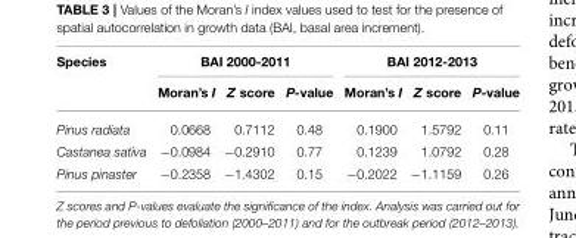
<table><thead><tr><td rowspan="2">Species</td><td colspan="3">BAI 2000-2011</td><td colspan="3">BAI 2012-2013</td></tr><tr><td>Moran’s I</td><td>Z score</td><td>P-value</td><td>Moran’s I</td><td>Z score</td><td>P-value</td></tr></thead><tbody><tr><td>Pinus radiata</td><td>0.0668</td><td>0.7112</td><td>0.48</td><td>0.1900</td><td>1.5792</td><td>0.11</td></tr><tr><td>Castanea sativa</td><td>−0.0984</td><td>−0.2910</td><td>0.77</td><td>0.1239</td><td>1.0792</td><td>0.28</td></tr><tr><td>Pinus pinaster</td><td>−0.2358</td><td>−1.4302</td><td>0.15</td><td>−0.2022</td><td>−1.1159</td><td>0.26</td></tr></tbody></table>